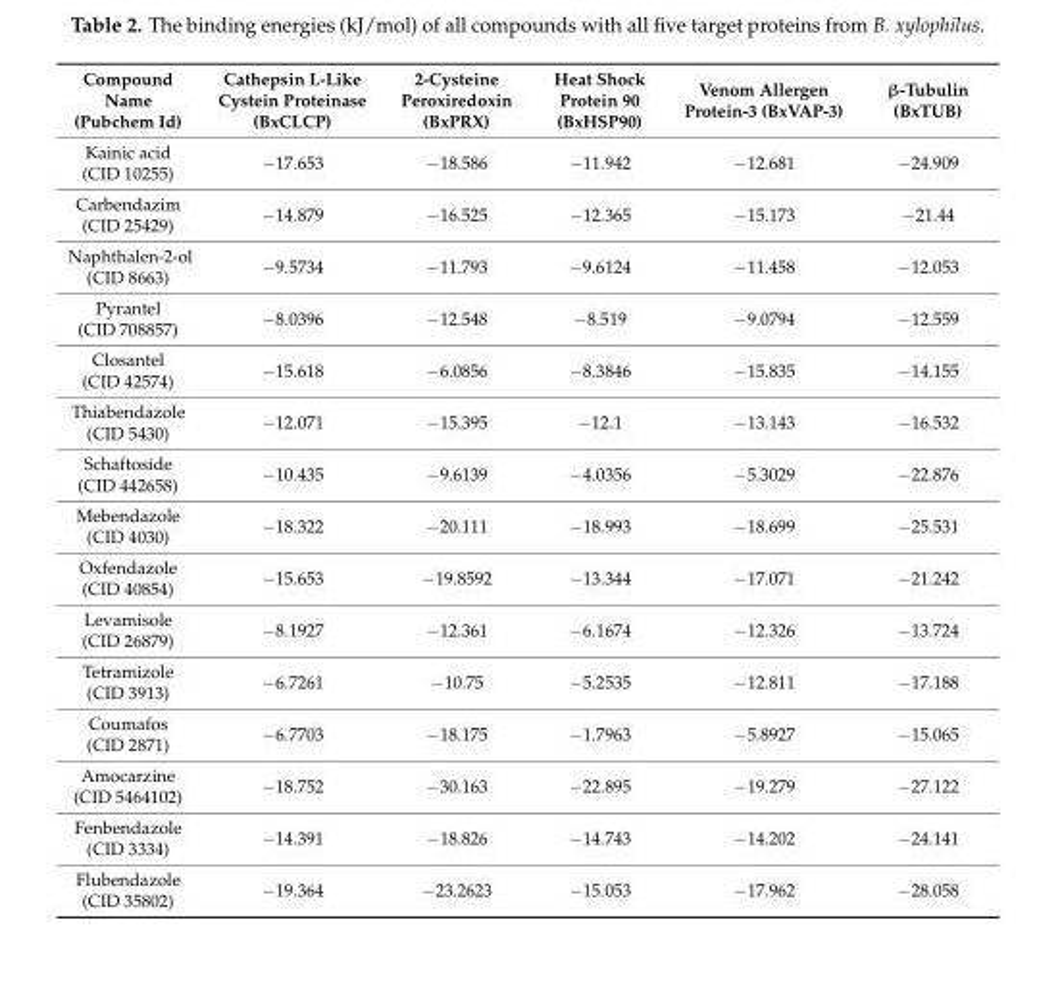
<table><thead><tr><td>Compound Name (Pubchem Id)</td><td>Cathepsin L-Like Cystein Proteinase (BxCLCP)</td><td>2-Cysteine Peroxiredoxin (BxPRX)</td><td>Heat Shock Protein 90 (BxHSP90)</td><td>Venom Allergen Protein-3 (BxVAP-3)</td><td>β-Tubulin (BxTUB)</td></tr></thead><tbody><tr><td>Kainic acid (CID 10255)</td><td>−17.653</td><td>−18.586</td><td>−11.942</td><td>−12.681</td><td>−24.909</td></tr><tr><td>Carbendazim (CID 25429)</td><td>−14.879</td><td>−16.525</td><td>−12.365</td><td>−15.173</td><td>−21.44</td></tr><tr><td>Naphthalen-2-ol (CID 8663)</td><td>−9.5734</td><td>−11.793</td><td>−9.6124</td><td>−11.458</td><td>−12.053</td></tr><tr><td>Pyrantel (CID 708857)</td><td>−8.0396</td><td>−12.548</td><td>−8.519</td><td>−9.0794</td><td>−12.559</td></tr><tr><td>Closantel (CID 42574)</td><td>−15.618</td><td>−6.0856</td><td>−8.3846</td><td>−15.835</td><td>−14.155</td></tr><tr><td>Thiabendazole (CID 5430)</td><td>−12.071</td><td>−15.395</td><td>−12.1</td><td>−13.143</td><td>−16.532</td></tr><tr><td>Schaftoside (CID 442658)</td><td>−10.435</td><td>−9.6139</td><td>−4.0356</td><td>−5.3029</td><td>−22.876</td></tr><tr><td>Mebendazole (CID 4030)</td><td>−18.322</td><td>−20.111</td><td>−18.993</td><td>−18.699</td><td>−25.531</td></tr><tr><td>Oxfendazole (CID 40854)</td><td>−15.653</td><td>−19.8592</td><td>−13.344</td><td>−17.071</td><td>−21.242</td></tr><tr><td>Levamisole (CID 26879)</td><td>−8.1927</td><td>−12.361</td><td>−6.1674</td><td>−12.326</td><td>−13.724</td></tr><tr><td>Tetramizole (CID 3913)</td><td>−6.7261</td><td>−10.75</td><td>−5.2535</td><td>−12.811</td><td>−17.188</td></tr><tr><td>Coumafos (CID 2871)</td><td>−6.7703</td><td>−18.175</td><td>−1.7963</td><td>−5.8927</td><td>−15.065</td></tr><tr><td>Amocarzine (CID 5464102)</td><td>−18.752</td><td>−30.163</td><td>−22.895</td><td>−19.279</td><td>−27.122</td></tr><tr><td>Fenbendazole (CID 3334)</td><td>−14.391</td><td>−18.826</td><td>−14.743</td><td>−14.202</td><td>−24.141</td></tr><tr><td>Flubendazole (CID 35802)</td><td>−19.364</td><td>−23.2623</td><td>−15.053</td><td>−17.962</td><td>−28.058</td></tr></tbody></table>